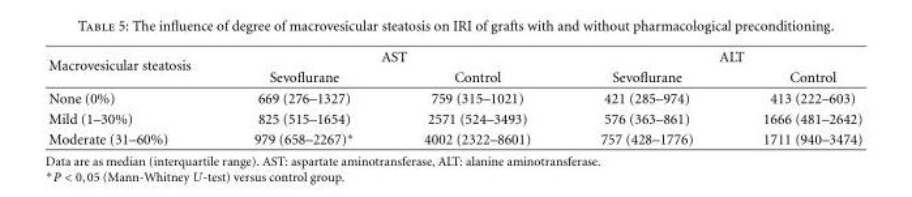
<table><thead><tr><td rowspan="2">Macrovesicular steatosis</td><td colspan="2">AST</td><td colspan="2">ALT</td></tr><tr><td>Sevoflurane</td><td>Control</td><td>Sevoflurane</td><td>Control</td></tr></thead><tbody><tr><td>None (0%)</td><td>669 (276–1327)</td><td>759 (315–1021)</td><td>421 (285–974)</td><td>413 (222–603)</td></tr><tr><td>Mild (1–30%)</td><td>825 (515–1654)</td><td>2571 (524–3493)</td><td>576 (363–861)</td><td>1666 (481–2642)</td></tr><tr><td>Moderate (31–60%)</td><td>979 (658–2267)∗</td><td>4002 (2322–8601)</td><td>757 (428–1776)</td><td>1711 (940–3474)</td></tr></tbody></table>